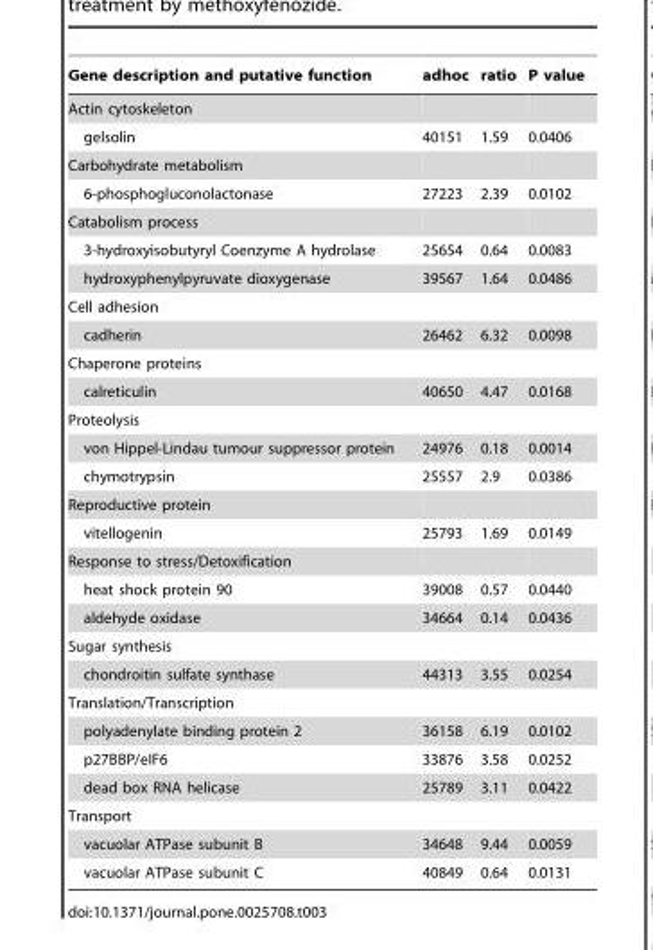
<table><thead><tr><td>Gene description and putative function</td><td>adhoc</td><td>ratio</td><td>P value</td></tr></thead><tbody><tr><td colspan="4">Actin cytoskeleton</td></tr><tr><td>gelsolin</td><td>40151</td><td>1.59</td><td>0.0406</td></tr><tr><td colspan="4">Carbohydrate metabolism</td></tr><tr><td>6-phosphogluconolactonase</td><td>27223</td><td>2.39</td><td>0.0102</td></tr><tr><td colspan="4">Catabolism process</td></tr><tr><td>3-hydroxyisobutyryl Coenzyme A hydrolase</td><td>25654</td><td>0.64</td><td>0.0083</td></tr><tr><td>hydroxyphenylpyruvate dioxygenase</td><td>39567</td><td>1.64</td><td>0.0486</td></tr><tr><td colspan="4">Cell adhesion</td></tr><tr><td>cadherin</td><td>26462</td><td>6.32</td><td>0.0098</td></tr><tr><td colspan="4">Chaperone proteins</td></tr><tr><td>calreticulin</td><td>40650</td><td>4.47</td><td>0.0168</td></tr><tr><td colspan="4">Proteolysis</td></tr><tr><td>von Hippel-Lindau tumour suppressor protein</td><td>24976</td><td>0.18</td><td>0.0014</td></tr><tr><td>chymotrypsin</td><td>25557</td><td>2.9</td><td>0.0386</td></tr><tr><td colspan="4">Reproductive protein</td></tr><tr><td>vitellogenin</td><td>25793</td><td>1.69</td><td>0.0149</td></tr><tr><td colspan="4">Response to stress/Detoxification</td></tr><tr><td>heat shock protein 90</td><td>39008</td><td>0.57</td><td>0.0440</td></tr><tr><td>aldehyde oxidase</td><td>34664</td><td>0.14</td><td>0.0436</td></tr><tr><td colspan="4">Sugar synthesis</td></tr><tr><td>chondroitin sulfate synthase</td><td>44313</td><td>3.55</td><td>0.0254</td></tr><tr><td colspan="4">Translation/Transcription</td></tr><tr><td>polyadenylate binding protein 2</td><td>36158</td><td>6.19</td><td>0.0102</td></tr><tr><td>p27BBP/eIF6</td><td>33876</td><td>3.58</td><td>0.0252</td></tr><tr><td>dead box RNA helicase</td><td>25789</td><td>3.11</td><td>0.0422</td></tr><tr><td colspan="4">Transport</td></tr><tr><td>vacuolar ATPase subunit B</td><td>34648</td><td>9.44</td><td>0.0059</td></tr><tr><td>vacuolar ATPase subunit C</td><td>40849</td><td>0.64</td><td>0.0131</td></tr></tbody></table>